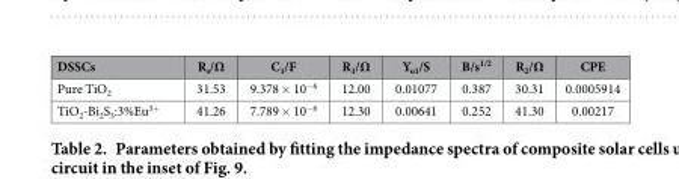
<table><thead><tr><td>DSSCs</td><td>R<sub>s</sub>/Ω</td><td>C<sub>1</sub>/F</td><td>R<sub>1</sub>/Ω</td><td>Y<sub>o1</sub>/S</td><td>B/s<sup>1/2</sup></td><td>R<sub>2</sub>/Ω</td><td>CPE</td></tr></thead><tbody><tr><td>Pure TiO<sub>2</sub></td><td>31.53</td><td>9.378 × 10<sup>−6</sup></td><td>12.00</td><td>0.01077</td><td>0.387</td><td>30.31</td><td>0.0005914</td></tr><tr><td>TiO<sub>2</sub>-Bi<sub>2</sub>S<sub>3</sub>:3%Eu<sup>3+</sup></td><td>41.26</td><td>7.789 × 10<sup>−6</sup></td><td>12.30</td><td>0.00641</td><td>0.252</td><td>41.30</td><td>0.00217</td></tr></tbody></table>